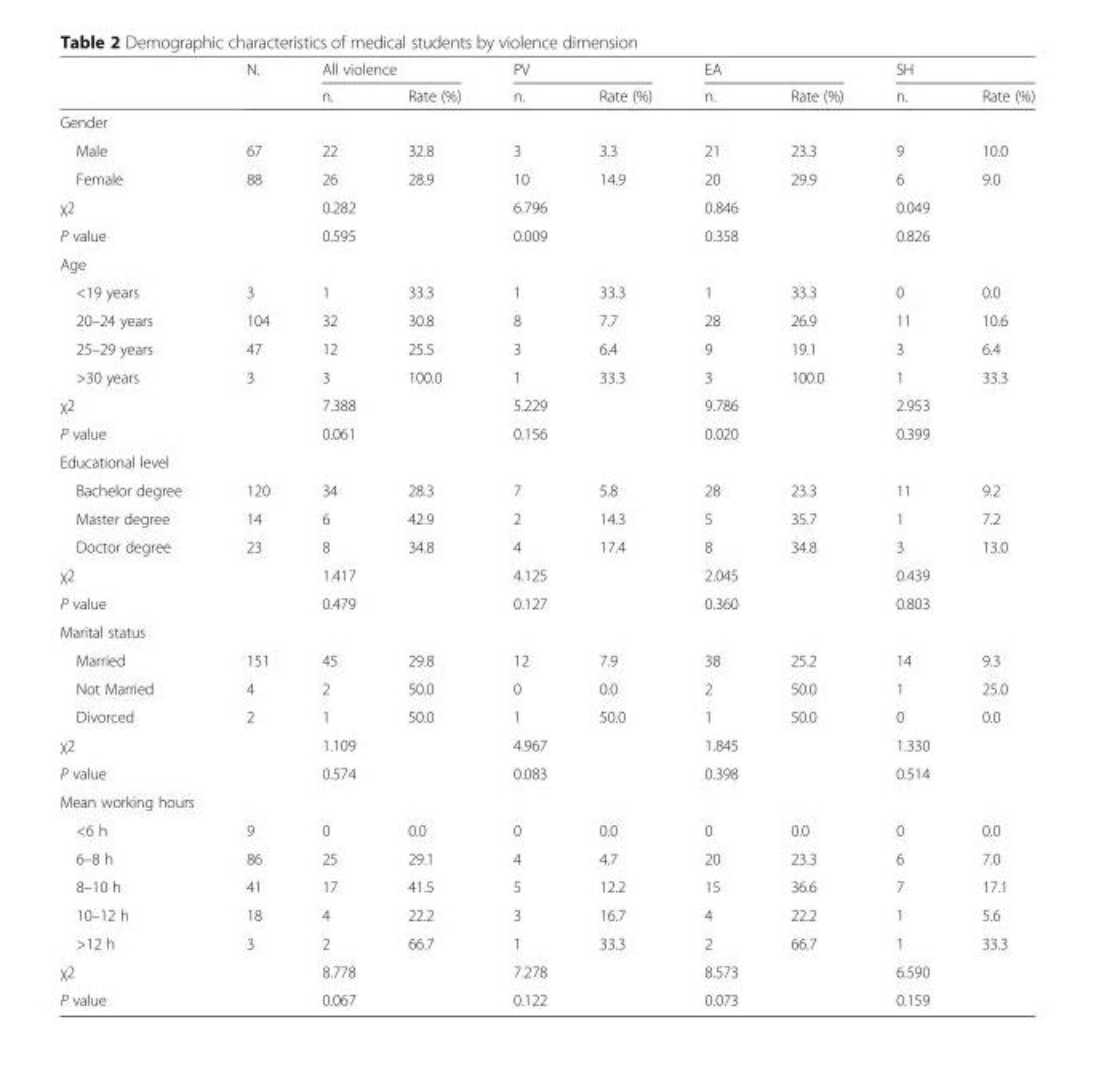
<table><thead><tr><td rowspan="2"></td><td rowspan="2">N.</td><td colspan="2">All violence</td><td colspan="2">PV</td><td colspan="2">EA</td><td colspan="2">SH</td></tr><tr><td>n.</td><td>Rate (%)</td><td>n.</td><td>Rate (%)</td><td>n.</td><td>Rate (%)</td><td>n.</td><td>Rate (%)</td></tr></thead><tbody><tr><td colspan="10">Gender</td></tr><tr><td>Male</td><td>67</td><td>22</td><td>32.8</td><td>3</td><td>3.3</td><td>21</td><td>23.3</td><td>9</td><td>10.0</td></tr><tr><td>Female</td><td>88</td><td>26</td><td>28.9</td><td>10</td><td>14.9</td><td>20</td><td>29.9</td><td>6</td><td>9.0</td></tr><tr><td>χ2</td><td></td><td>0.282</td><td></td><td>6.796</td><td></td><td>0.846</td><td></td><td>0.049</td><td></td></tr><tr><td>P value</td><td></td><td>0.595</td><td></td><td>0.009</td><td></td><td>0.358</td><td></td><td>0.826</td><td></td></tr><tr><td colspan="10">Age</td></tr><tr><td>&lt;19 years</td><td>3</td><td>1</td><td>33.3</td><td>1</td><td>33.3</td><td>1</td><td>33.3</td><td>0</td><td>0.0</td></tr><tr><td>20–24 years</td><td>104</td><td>32</td><td>30.8</td><td>8</td><td>7.7</td><td>28</td><td>26.9</td><td>11</td><td>10.6</td></tr><tr><td>25–29 years</td><td>47</td><td>12</td><td>25.5</td><td>3</td><td>6.4</td><td>9</td><td>19.1</td><td>3</td><td>6.4</td></tr><tr><td>&gt;30 years</td><td>3</td><td>3</td><td>100.0</td><td>1</td><td>33.3</td><td>3</td><td>100.0</td><td>1</td><td>33.3</td></tr><tr><td>χ2</td><td></td><td>7.388</td><td></td><td>5.229</td><td></td><td>9.786</td><td></td><td>2.953</td><td></td></tr><tr><td>P value</td><td></td><td>0.061</td><td></td><td>0.156</td><td></td><td>0.020</td><td></td><td>0.399</td><td></td></tr><tr><td colspan="10">Educational level</td></tr><tr><td>Bachelor degree</td><td>120</td><td>34</td><td>28.3</td><td>7</td><td>5.8</td><td>28</td><td>23.3</td><td>11</td><td>9.2</td></tr><tr><td>Master degree</td><td>14</td><td>6</td><td>42.9</td><td>2</td><td>14.3</td><td>5</td><td>35.7</td><td>1</td><td>7.2</td></tr><tr><td>Doctor degree</td><td>23</td><td>8</td><td>34.8</td><td>4</td><td>17.4</td><td>8</td><td>34.8</td><td>3</td><td>13.0</td></tr><tr><td>χ2</td><td></td><td>1.417</td><td></td><td>4.125</td><td></td><td>2.045</td><td></td><td>0.439</td><td></td></tr><tr><td>P value</td><td></td><td>0.479</td><td></td><td>0.127</td><td></td><td>0.360</td><td></td><td>0.803</td><td></td></tr><tr><td colspan="10">Marital status</td></tr><tr><td>Married</td><td>151</td><td>45</td><td>29.8</td><td>12</td><td>7.9</td><td>38</td><td>25.2</td><td>14</td><td>9.3</td></tr><tr><td>Not Married</td><td>4</td><td>2</td><td>50.0</td><td>0</td><td>0.0</td><td>2</td><td>50.0</td><td>1</td><td>25.0</td></tr><tr><td>Divorced</td><td>2</td><td>1</td><td>50.0</td><td>1</td><td>50.0</td><td>1</td><td>50.0</td><td>0</td><td>0.0</td></tr><tr><td>χ2</td><td></td><td>1.109</td><td></td><td>4.967</td><td></td><td>1.845</td><td></td><td>1.330</td><td></td></tr><tr><td>P value</td><td></td><td>0.574</td><td></td><td>0.083</td><td></td><td>0.398</td><td></td><td>0.514</td><td></td></tr><tr><td colspan="10">Mean working hours</td></tr><tr><td>&lt;6 h</td><td>9</td><td>0</td><td>0.0</td><td>0</td><td>0.0</td><td>0</td><td>0.0</td><td>0</td><td>0.0</td></tr><tr><td>6–8 h</td><td>86</td><td>25</td><td>29.1</td><td>4</td><td>4.7</td><td>20</td><td>23.3</td><td>6</td><td>7.0</td></tr><tr><td>8–10 h</td><td>41</td><td>17</td><td>41.5</td><td>5</td><td>12.2</td><td>15</td><td>36.6</td><td>7</td><td>17.1</td></tr><tr><td>10–12 h</td><td>18</td><td>4</td><td>22.2</td><td>3</td><td>16.7</td><td>4</td><td>22.2</td><td>1</td><td>5.6</td></tr><tr><td>&gt;12 h</td><td>3</td><td>2</td><td>66.7</td><td>1</td><td>33.3</td><td>2</td><td>66.7</td><td>1</td><td>33.3</td></tr><tr><td>χ2</td><td></td><td>8.778</td><td></td><td>7.278</td><td></td><td>8.573</td><td></td><td>6.590</td><td></td></tr><tr><td>P value</td><td></td><td>0.067</td><td></td><td>0.122</td><td></td><td>0.073</td><td></td><td>0.159</td><td></td></tr></tbody></table>